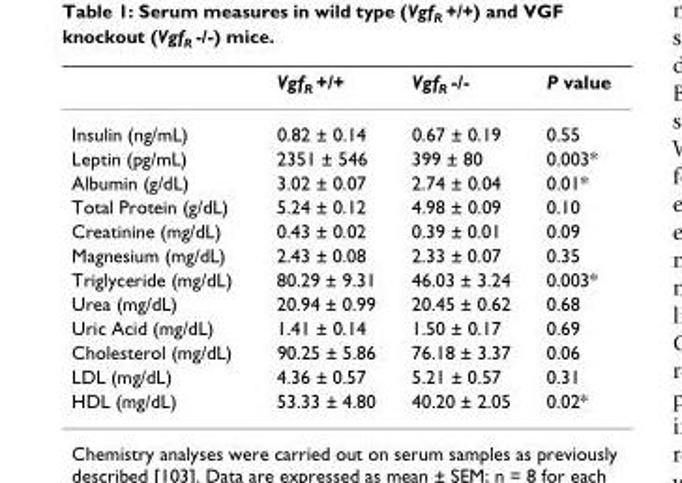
<table><thead><tr><td></td><td>Vgf<sub>R</sub> +/+</td><td>Vgf<sub>R</sub> -/-</td><td>P value</td></tr></thead><tbody><tr><td>Insulin (ng/mL)</td><td>0.82 ± 0.14</td><td>0.67 ± 0.19</td><td>0.55</td></tr><tr><td>Leptin (pg/mL)</td><td>2351 ± 546</td><td>399 ± 80</td><td>0.003*</td></tr><tr><td>Albumin (g/dL)</td><td>3.02 ± 0.07</td><td>2.74 ± 0.04</td><td>0.01*</td></tr><tr><td>Total Protein (g/dL)</td><td>5.24 ± 0.12</td><td>4.98 ± 0.09</td><td>0.10</td></tr><tr><td>Creatinine (mg/dL)</td><td>0.43 ± 0.02</td><td>0.39 ± 0.01</td><td>0.09</td></tr><tr><td>Magnesium (mg/dL)</td><td>2.43 ± 0.08</td><td>2.33 ± 0.07</td><td>0.35</td></tr><tr><td>Triglyceride (mg/dL)</td><td>80.29 ± 9.31</td><td>46.03 ± 3.24</td><td>0.003*</td></tr><tr><td>Urea (mg/dL)</td><td>20.94 ± 0.99</td><td>20.45 ± 0.62</td><td>0.68</td></tr><tr><td>Uric Acid (mg/dL)</td><td>1.41 ± 0.14</td><td>1.50 ± 0.17</td><td>0.69</td></tr><tr><td>Cholesterol (mg/dL)</td><td>90.25 ± 5.86</td><td>76.18 ± 3.37</td><td>0.06</td></tr><tr><td>LDL (mg/dL)</td><td>4.36 ± 0.57</td><td>5.21 ± 0.57</td><td>0.31</td></tr><tr><td>HDL (mg/dL)</td><td>53.33 ± 4.80</td><td>40.20 ± 2.05</td><td>0.02*</td></tr></tbody></table>